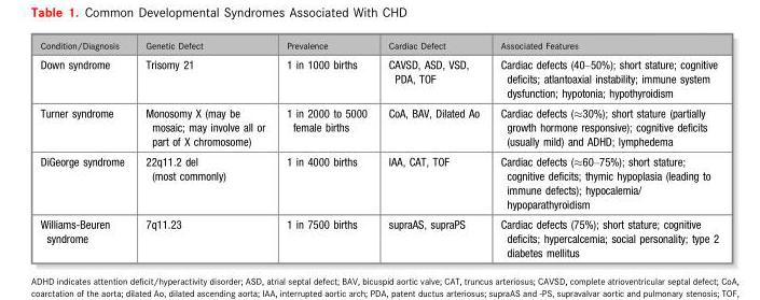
<table><thead><tr><td>Condition/Diagnosis</td><td>Genetic Defect</td><td>Prevalence</td><td>Cardiac Defect</td><td>Associated Features</td></tr></thead><tbody><tr><td>Down syndrome</td><td>Trisomy 21</td><td>1 in 1000 births</td><td>CAVSD, ASD, VSD, PDA, TOF</td><td>Cardiac defects (40–50%); short stature; cognitive deficits; atlantoaxial instability; immune system dysfunction; hypotonia; hypothyroidism</td></tr><tr><td>Turner syndrome</td><td>Monosomy X (may be mosaic; may involve all or part of X chromosome)</td><td>1 in 2000 to 5000 female births</td><td>CoA, BAV, Dilated Ao</td><td>Cardiac defects (≈30%); short stature (partially growth hormone responsive); cognitive deficits (usually mild) and ADHD; lymphedema</td></tr><tr><td>DiGeorge syndrome</td><td>22q11.2 del (most commonly)</td><td>1 in 4000 births</td><td>IAA, CAT, TOF</td><td>Cardiac defects (≈60–75%); short stature; cognitive deficits; thymic hypoplasia (leading to immune defects); hypocalemia/ hypoparathyroidism</td></tr><tr><td>Williams-Beuren syndrome</td><td>7q11.23</td><td>1 in 7500 births</td><td>supraAS, supraPS</td><td>Cardiac defects (75%); short stature; cognitive deficits; hypercalcemia; social personality; type 2 diabetes mellitus</td></tr></tbody></table>